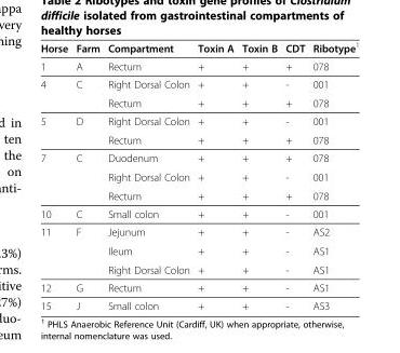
<table><thead><tr><td>Horse</td><td>Farm</td><td>Compartment</td><td>Toxin A</td><td>Toxin B</td><td>CDT</td><td>Ribotype<sup>1</sup></td></tr></thead><tbody><tr><td>1</td><td>A</td><td>Rectum</td><td>+</td><td>+</td><td>+</td><td>078</td></tr><tr><td rowspan="2">4</td><td>C</td><td>Right Dorsal Colon</td><td>+</td><td>+</td><td>-</td><td>001</td></tr><tr><td></td><td>Rectum</td><td>+</td><td>+</td><td>+</td><td>078</td></tr><tr><td rowspan="2">5</td><td>D</td><td>Right Dorsal Colon</td><td>+</td><td>+</td><td>-</td><td>001</td></tr><tr><td></td><td>Rectum</td><td>+</td><td>+</td><td>+</td><td>078</td></tr><tr><td rowspan="3">7</td><td rowspan="2">C</td><td>Duodenum</td><td>+</td><td>+</td><td>+</td><td>078</td></tr><tr><td>Right Dorsal Colon</td><td>+</td><td>+</td><td>-</td><td>001</td></tr><tr><td></td><td>Rectum</td><td>+</td><td>+</td><td>+</td><td>078</td></tr><tr><td>10</td><td>C</td><td>Small colon</td><td>+</td><td>+</td><td>-</td><td>001</td></tr><tr><td rowspan="3">11</td><td rowspan="2">F</td><td>Jejunum</td><td>+</td><td>+</td><td>-</td><td>AS2</td></tr><tr><td>Ileum</td><td>+</td><td>+</td><td>-</td><td>AS1</td></tr><tr><td></td><td>Right Dorsal Colon</td><td>+</td><td>+</td><td>-</td><td>AS1</td></tr><tr><td>12</td><td>G</td><td>Rectum</td><td>+</td><td>+</td><td>-</td><td>AS1</td></tr><tr><td>15</td><td>J</td><td>Small colon</td><td>+</td><td>+</td><td>-</td><td>AS3</td></tr></tbody></table>